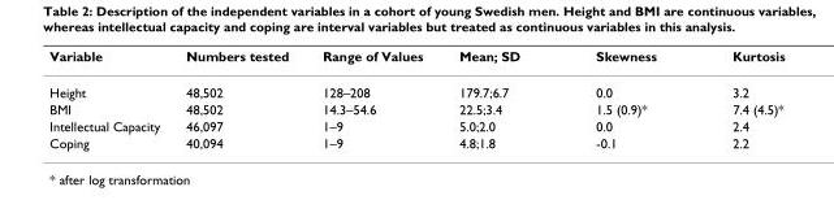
<table><thead><tr><td>Variable</td><td>Numbers tested</td><td>Range of Values</td><td>Mean; SD</td><td>Skewness</td><td>Kurtosis</td></tr></thead><tbody><tr><td>Height</td><td>48,502</td><td>128–208</td><td>179.7;6.7</td><td>0.0</td><td>3.2</td></tr><tr><td>BMI</td><td>48,502</td><td>14.3–54.6</td><td>22.5;3.4</td><td>1.5 (0.9)*</td><td>7.4 (4.5)*</td></tr><tr><td>Intellectual Capacity</td><td>46,097</td><td>1–9</td><td>5.0;2.0</td><td>0.0</td><td>2.4</td></tr><tr><td>Coping</td><td>40,094</td><td>1–9</td><td>4.8;1.8</td><td>-0.1</td><td>2.2</td></tr></tbody></table>